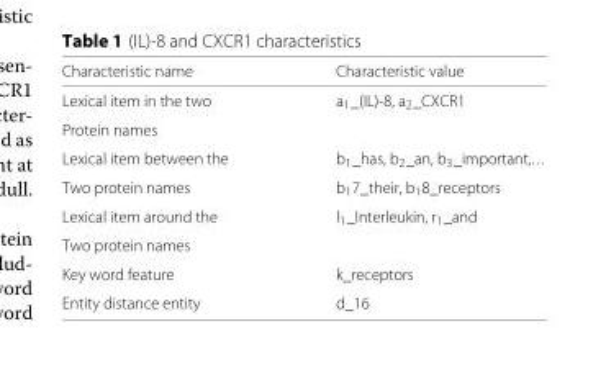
<table><thead><tr><td>Characteristic name</td><td>Characteristic value</td></tr></thead><tbody><tr><td>Lexical item in the two</td><td>a1_(IL)-8, a2_CXCR1</td></tr><tr><td colspan="2">Protein names</td></tr><tr><td>Lexical item between the</td><td>b1_has, b2_an, b3_important,...</td></tr><tr><td>Two protein names</td><td>b<sub>1</sub>7_their, b<sub>1</sub>8_receptors</td></tr><tr><td>Lexical item around the</td><td>l1_Interleukin, r1_and</td></tr><tr><td colspan="2">Two protein names</td></tr><tr><td>Key word feature</td><td>k_receptors</td></tr><tr><td>Entity distance entity</td><td>d_16</td></tr></tbody></table>